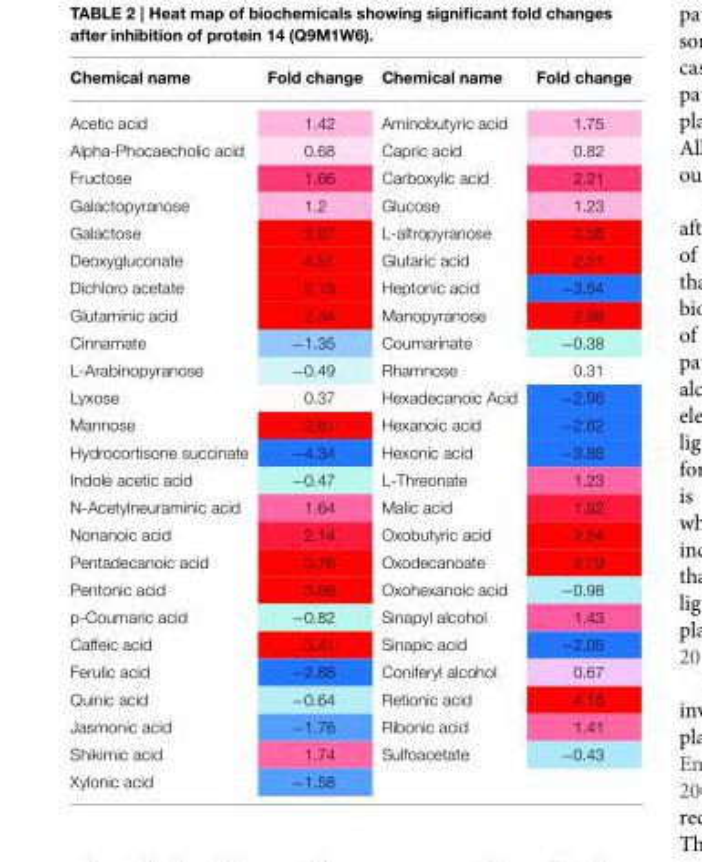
<table><thead><tr><td>Chemical name</td><td>Fold change</td><td>Chemical name</td><td>Fold change</td></tr></thead><tbody><tr><td>Acetic acid</td><td>1.42</td><td>Aminobutyric acid</td><td>1.75</td></tr><tr><td>Alpha-Phocaecholic acid</td><td>0.68</td><td>Capric acid</td><td>0.82</td></tr><tr><td>Fructose</td><td>1.66</td><td>Carboxylic acid</td><td>2.21</td></tr><tr><td>Galactopyranose</td><td>1.2</td><td>Glucose</td><td>1.23</td></tr><tr><td>Galactose</td><td>2.87</td><td>L-altropyranose</td><td>3.56</td></tr><tr><td>Deoxygluconate</td><td>4.51</td><td>Glutaric acid</td><td>2.51</td></tr><tr><td>Dichloro acetate</td><td>2.19</td><td>Heptonic acid</td><td>−3.54</td></tr><tr><td>Glutaminic acid</td><td>2.34</td><td>Manopyranose</td><td>2.98</td></tr><tr><td>Cinnamate</td><td>−1.35</td><td>Coumarinate</td><td>−0.38</td></tr><tr><td>L-Arabinopyranose</td><td>−0.49</td><td>Rhamnose</td><td>0.31</td></tr><tr><td>Lyxose</td><td>0.37</td><td>Hexadecanoic Acid</td><td>−2.96</td></tr><tr><td>Mannose</td><td>2.61</td><td>Hexanoic acid</td><td>−2.62</td></tr><tr><td>Hydrocortisone succinate</td><td>−4.34</td><td>Hexonic acid</td><td>−3.88</td></tr><tr><td>Indole acetic acid</td><td>−0.47</td><td>L-Threonate</td><td>1.23</td></tr><tr><td>N-Acetylneuraminic acid</td><td>1.64</td><td>Malic acid</td><td>1.82</td></tr><tr><td>Nonanoic acid</td><td>2.14</td><td>Oxobutyric acid</td><td>2.54</td></tr><tr><td>Pentadecanoic acid</td><td>3.76</td><td>Oxodecanoate</td><td>2.79</td></tr><tr><td>Pentonic acid</td><td>3.68</td><td>Oxohexanoic acid</td><td>−0.98</td></tr><tr><td>p-Coumaric acid</td><td>−0.82</td><td>Sinapyl alcohol</td><td>1.43</td></tr><tr><td>Caffeic acid</td><td>3.41</td><td>Sinapic acid</td><td>−2.05</td></tr><tr><td>Ferulic acid</td><td>−2.88</td><td>Coniferyl alcohol</td><td>0.67</td></tr><tr><td>Quinic acid</td><td>−0.64</td><td>Retionic acid</td><td>4.16</td></tr><tr><td>Jasmonic acid</td><td>−1.76</td><td>Ribonic acid</td><td>1.41</td></tr><tr><td>Shikimic acid</td><td>1.74</td><td>Sulfoacetate</td><td>−0.43</td></tr><tr><td>Xylonic acid</td><td>−1.58</td><td></td><td></td></tr></tbody></table>